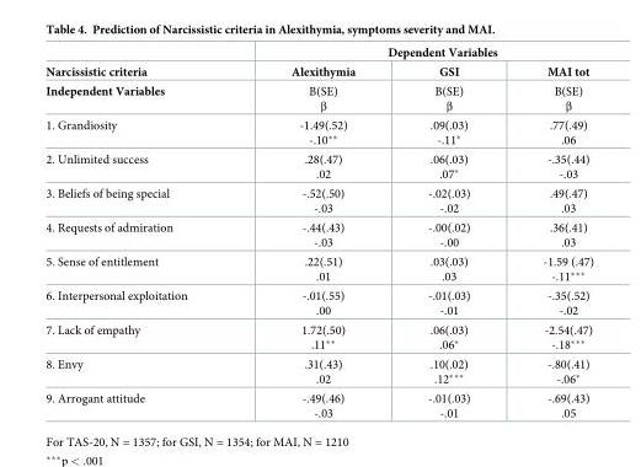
<table><thead><tr><td rowspan="2">Narcissistic criteria</td><td colspan="3">Dependent Variables</td></tr><tr><td>Alexithymia</td><td>GSI</td><td>MAI tot</td></tr></thead><tbody><tr><td>Independent Variables</td><td>B(SE) β</td><td>B(SE) β</td><td>B(SE) β</td></tr><tr><td>1. Grandiosity</td><td>-1.49(.52) -.10**</td><td>.09(.03) -.11*</td><td>.77(.49) .06</td></tr><tr><td>2. Unlimited success</td><td>.28(.47) .02</td><td>.06(.03) .07*</td><td>-.35(.44) -.03</td></tr><tr><td>3. Beliefs of being special</td><td>-.52(.50) -.03</td><td>-.02(.03) -.02</td><td>.49(.47) .03</td></tr><tr><td>4. Requests of admiration</td><td>-.44(.43) -.03</td><td>-.00(.02) -.00</td><td>.36(.41) .03</td></tr><tr><td>5. Sense of entitlement</td><td>.22(.51) .01</td><td>.03(.03) .03</td><td>-1.59 (.47) -.11***</td></tr><tr><td>6. Interpersonal exploitation</td><td>-.01(.55) .00</td><td>-.01(.03) -.01</td><td>-.35(.52) -.02</td></tr><tr><td>7. Lack of empathy</td><td>1.72(.50) .11**</td><td>.06(.03) .06*</td><td>-2.54(.47) -.18***</td></tr><tr><td>8. Envy</td><td>.31(.43) .02</td><td>.10(.02) .12***</td><td>-.80(.41) -.06*</td></tr><tr><td>9. Arrogant attitude</td><td>-.49(.46) -.03</td><td>-.01(.03) -.01</td><td>-.69(.43) .05</td></tr></tbody></table>